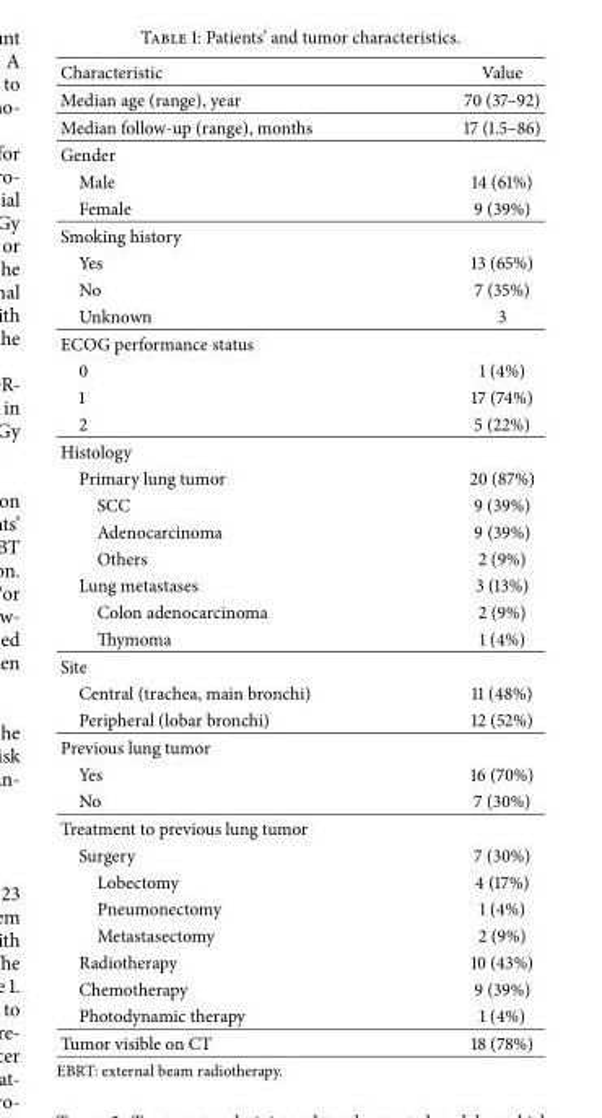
<table><thead><tr><td>Characteristic</td><td>Value</td></tr></thead><tbody><tr><td>Median age (range), year</td><td>70 (37–92)</td></tr><tr><td>Median follow-up (range), months</td><td>17 (1.5–86)</td></tr><tr><td colspan="2">Gender</td></tr><tr><td>Male</td><td>14 (61%)</td></tr><tr><td>Female</td><td>9 (39%)</td></tr><tr><td colspan="2">Smoking history</td></tr><tr><td>Yes</td><td>13 (65%)</td></tr><tr><td>No</td><td>7 (35%)</td></tr><tr><td>Unknown</td><td>3</td></tr><tr><td colspan="2">ECOG performance status</td></tr><tr><td>0</td><td>1 (4%)</td></tr><tr><td>1</td><td>17 (74%)</td></tr><tr><td>2</td><td>5 (22%)</td></tr><tr><td colspan="2">Histology</td></tr><tr><td>Primary lung tumor</td><td>20 (87%)</td></tr><tr><td>SCC</td><td>9 (39%)</td></tr><tr><td>Adenocarcinoma</td><td>9 (39%)</td></tr><tr><td>Others</td><td>2 (9%)</td></tr><tr><td>Lung metastases</td><td>3 (13%)</td></tr><tr><td>Colon adenocarcinoma</td><td>2 (9%)</td></tr><tr><td>Thymoma</td><td>1 (4%)</td></tr><tr><td colspan="2">Site</td></tr><tr><td>Central (trachea, main bronchi)</td><td>11 (48%)</td></tr><tr><td>Peripheral (lobar bronchi)</td><td>12 (52%)</td></tr><tr><td colspan="2">Previous lung tumor</td></tr><tr><td>Yes</td><td>16 (70%)</td></tr><tr><td>No</td><td>7 (30%)</td></tr><tr><td colspan="2">Treatment to previous lung tumor</td></tr><tr><td>Surgery</td><td>7 (30%)</td></tr><tr><td>Lobectomy</td><td>4 (17%)</td></tr><tr><td>Pneumonectomy</td><td>1 (4%)</td></tr><tr><td>Metastasectomy</td><td>2 (9%)</td></tr><tr><td>Radiotherapy</td><td>10 (43%)</td></tr><tr><td>Chemotherapy</td><td>9 (39%)</td></tr><tr><td>Photodynamic therapy</td><td>1 (4%)</td></tr><tr><td>Tumor visible on CT</td><td>18 (78%)</td></tr></tbody></table>